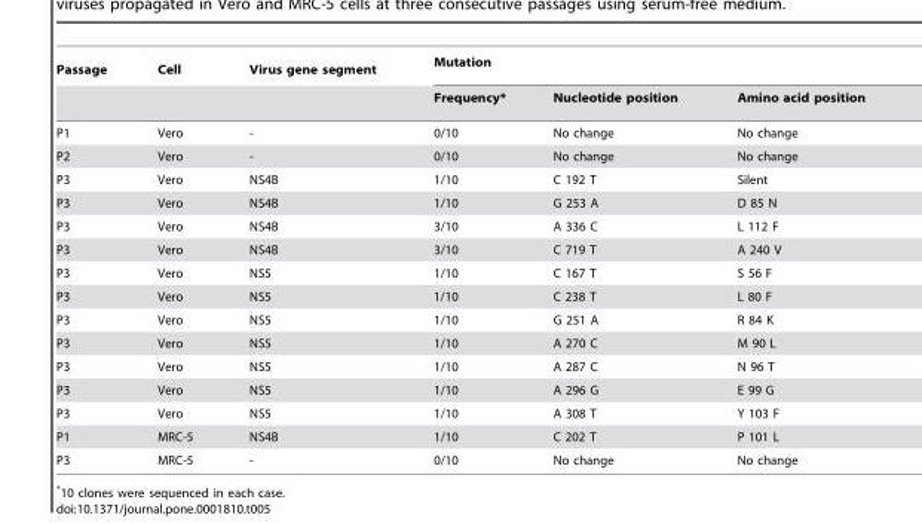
<table><thead><tr><td rowspan="2">Passage</td><td rowspan="2">Cell</td><td rowspan="2">Virus gene segment</td><td colspan="3">Mutation</td></tr><tr><td>Frequency*</td><td>Nucleotide position</td><td>Amino acid position</td></tr></thead><tbody><tr><td>P1</td><td>Vero</td><td>-</td><td>0/10</td><td>No change</td><td>No change</td></tr><tr><td>P2</td><td>Vero</td><td>-</td><td>0/10</td><td>No change</td><td>No change</td></tr><tr><td>P3</td><td>Vero</td><td>NS4B</td><td>1/10</td><td>C 192 T</td><td>Silent</td></tr><tr><td>P3</td><td>Vero</td><td>NS4B</td><td>1/10</td><td>G 253 A</td><td>D 85 N</td></tr><tr><td>P3</td><td>Vero</td><td>NS4B</td><td>3/10</td><td>A 336 C</td><td>L 112 F</td></tr><tr><td>P3</td><td>Vero</td><td>NS4B</td><td>3/10</td><td>C 719 T</td><td>A 240 V</td></tr><tr><td>P3</td><td>Vero</td><td>NS5</td><td>1/10</td><td>C 167 T</td><td>S 56 F</td></tr><tr><td>P3</td><td>Vero</td><td>NS5</td><td>1/10</td><td>C 238 T</td><td>L 80 F</td></tr><tr><td>P3</td><td>Vero</td><td>NS5</td><td>1/10</td><td>G 251 A</td><td>R 84 K</td></tr><tr><td>P3</td><td>Vero</td><td>NS5</td><td>1/10</td><td>A 270 C</td><td>M 90 L</td></tr><tr><td>P3</td><td>Vero</td><td>NS5</td><td>1/10</td><td>A 287 C</td><td>N 96 T</td></tr><tr><td>P3</td><td>Vero</td><td>NS5</td><td>1/10</td><td>A 296 G</td><td>E 99 G</td></tr><tr><td>P3</td><td>Vero</td><td>NS5</td><td>1/10</td><td>A 308 T</td><td>Y 103 F</td></tr><tr><td>P1</td><td>MRC-5</td><td>NS4B</td><td>1/10</td><td>C 202 T</td><td>P 101 L</td></tr><tr><td>P3</td><td>MRC-5</td><td>-</td><td>0/10</td><td>No change</td><td>No change</td></tr></tbody></table>